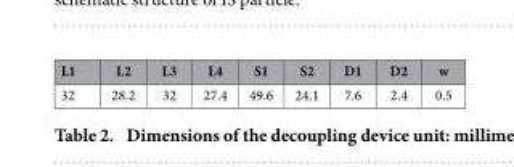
<table><thead><tr><td>L1</td><td>L2</td><td>L3</td><td>L4</td><td>S1</td><td>S2</td><td>D1</td><td>D2</td><td>w</td></tr></thead><tbody><tr><td>32</td><td>28.2</td><td>32</td><td>27.4</td><td>49.6</td><td>24.1</td><td>7.6</td><td>2.4</td><td>0.5</td></tr></tbody></table>